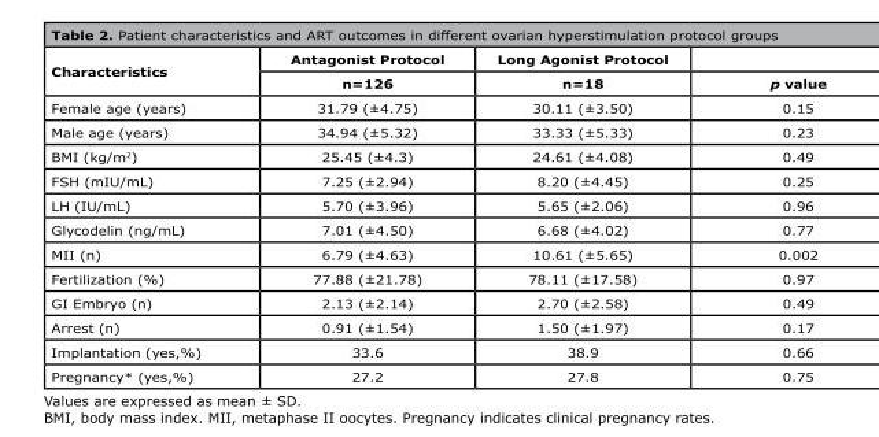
<table><thead><tr><td rowspan="2">Characteristics</td><td rowspan="2">Antagonist Protocol n=126</td><td rowspan="2">Long Agonist Protocol n=18</td><td rowspan="2">p value</td></tr><tr></tr></thead><tbody><tr><td>Female age (years)</td><td>31.79 (±4.75)</td><td>30.11 (±3.50)</td><td>0.15</td></tr><tr><td>Male age (years)</td><td>34.94 (±5.32)</td><td>33.33 (±5.33)</td><td>0.23</td></tr><tr><td>BMI (kg/m<sup>2</sup>)</td><td>25.45 (±4.3)</td><td>24.61 (±4.08)</td><td>0.49</td></tr><tr><td>FSH (mIU/mL)</td><td>7.25 (±2.94)</td><td>8.20 (±4.45)</td><td>0.25</td></tr><tr><td>LH (IU/mL)</td><td>5.70 (±3.96)</td><td>5.65 (±2.06)</td><td>0.96</td></tr><tr><td>Glycodelin (ng/mL)</td><td>7.01 (±4.50)</td><td>6.68 (±4.02)</td><td>0.77</td></tr><tr><td>MII (n)</td><td>6.79 (±4.63)</td><td>10.61 (±5.65)</td><td>0.002</td></tr><tr><td>Fertilization (%)</td><td>77.88 (±21.78)</td><td>78.11 (±17.58)</td><td>0.97</td></tr><tr><td>GI Embryo (n)</td><td>2.13 (±2.14)</td><td>2.70 (±2.58)</td><td>0.49</td></tr><tr><td>Arrest (n)</td><td>0.91 (±1.54)</td><td>1.50 (±1.97)</td><td>0.17</td></tr><tr><td>Implantation (yes,%)</td><td>33.6</td><td>38.9</td><td>0.66</td></tr><tr><td>Pregnancy* (yes,%)</td><td>27.2</td><td>27.8</td><td>0.75</td></tr></tbody></table>